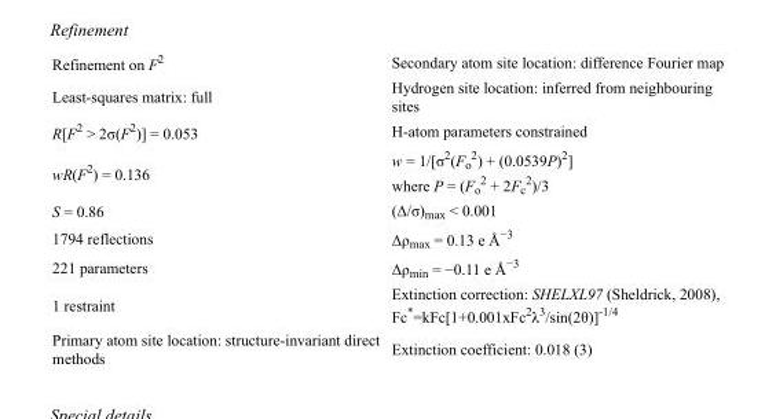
<table><tbody><tr><td>Refinement on F<sup>2</sup></td><td>Secondary atom site location: difference Fourier map</td></tr><tr><td>Least-squares matrix: full</td><td>Hydrogen site location: inferred from neighbouring sites</td></tr><tr><td>R[F<sup>2</sup> &gt; 2σ(F<sup>2</sup>)] = 0.053</td><td>H-atom parameters constrained</td></tr><tr><td>wR(F<sup>2</sup>) = 0.136</td><td>w = 1/[σ<sup>2</sup>(F<sub>o</sub> <sup>2</sup>) + (0.0539P)<sup>2</sup>] where P = (F<sub>o</sub> <sup>2</sup> + 2F<sub>c</sub> <sup>2</sup>)/3</td></tr><tr><td>S = 0.86</td><td>(Δ/σ)<sub>max</sub> &lt; 0.001</td></tr><tr><td>1794 reflections</td><td>Δρ<sub>max</sub> = 0.13 e Å<sup>−3</sup></td></tr><tr><td>221 parameters</td><td>Δρ<sub>min</sub> = −0.11 e Å<sup>−3</sup></td></tr><tr><td>1 restraint</td><td>Extinction correction: SHELXL97 (Sheldrick, 2008), Fc*=kFc[1+0.001xFc<sup>2</sup>λ<sup>3</sup>/sin(2θ)]<sup>-1/4</sup></td></tr><tr><td>Primary atom site location: structure-invariant direct methods</td><td>Extinction coefficient: 0.018 (3)</td></tr></tbody></table>